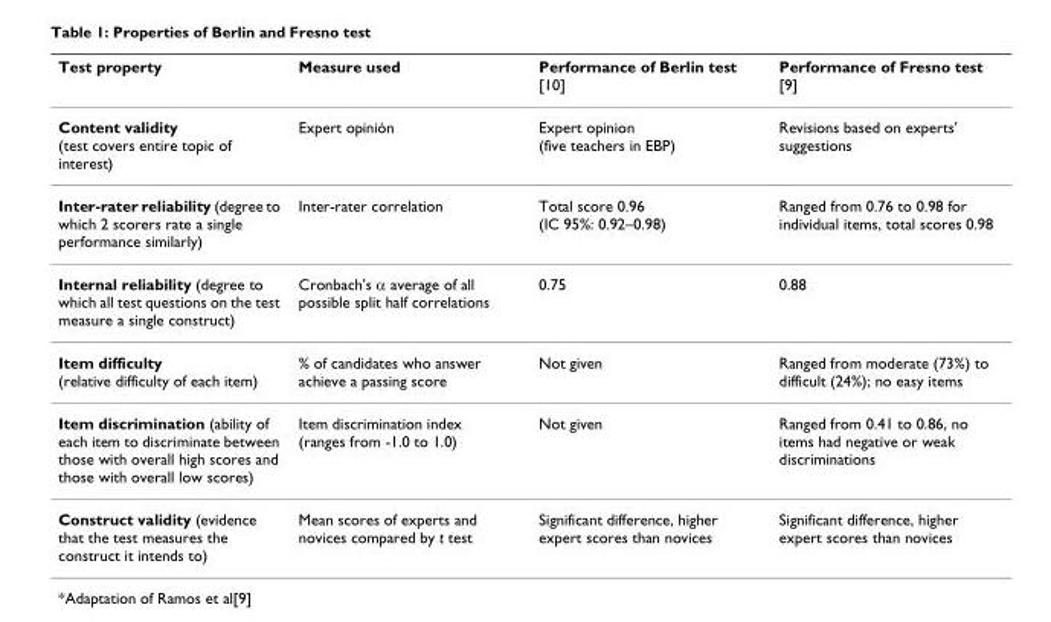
<table><thead><tr><td>Test property</td><td>Measure used</td><td>Performance of Berlin test [10]</td><td>Performance of Fresno test [9]</td></tr></thead><tbody><tr><td>Content validity (test covers entire topic of interest)</td><td>Expert opinión</td><td>Expert opinion (five teachers in EBP)</td><td>Revisions based on experts&#x27; suggestions</td></tr><tr><td>Inter-rater reliability (degree to which 2 scorers rate a single performance similarly)</td><td>Inter-rater correlation</td><td>Total score 0.96 (IC 95%: 0.92–0.98)</td><td>Ranged from 0.76 to 0.98 for individual items, total scores 0.98</td></tr><tr><td>Internal reliability (degree to which all test questions on the test measure a single construct)</td><td>Cronbach&#x27;s α average of all possible split half correlations</td><td>0.75</td><td>0.88</td></tr><tr><td>Item difficulty (relative difficulty of each item)</td><td>% of candidates who answer achieve a passing score</td><td>Not given</td><td>Ranged from moderate (73%) to difficult (24%); no easy items</td></tr><tr><td>Item discrimination (ability of each item to discriminate between those with overall high scores and those with overall low scores)</td><td>Item discrimination index (ranges from -1.0 to 1.0)</td><td>Not given</td><td>Ranged from 0.41 to 0.86, no items had negative or weak discriminations</td></tr><tr><td>Construct validity (evidence that the test measures the construct it intends to)</td><td>Mean scores of experts and novices compared by t test</td><td>Significant difference, higher expert scores than novices</td><td>Significant difference, higher expert scores than novices</td></tr></tbody></table>